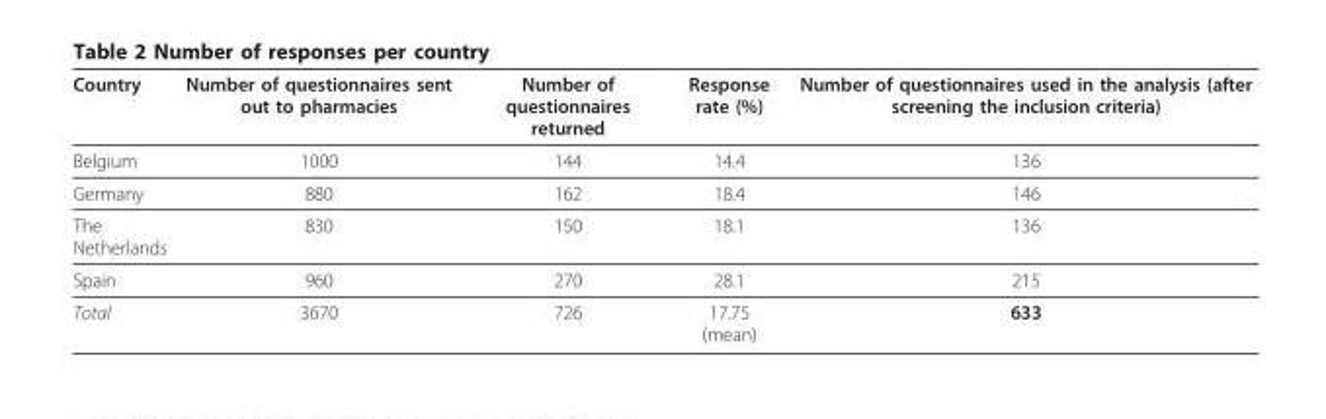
<table><thead><tr><td>Country</td><td>Number of questionnaires sent out to pharmacies</td><td>Number of questionnaires returned</td><td>Response rate (%)</td><td>Number of questionnaires used in the analysis (after screening the inclusion criteria)</td></tr></thead><tbody><tr><td>Belgium</td><td>1000</td><td>144</td><td>14.4</td><td>136</td></tr><tr><td>Germany</td><td>880</td><td>162</td><td>18.4</td><td>146</td></tr><tr><td>The Netherlands</td><td>830</td><td>150</td><td>18.1</td><td>136</td></tr><tr><td>Spain</td><td>960</td><td>270</td><td>28.1</td><td>215</td></tr><tr><td>Total</td><td>3670</td><td>726</td><td>17.75 (mean)</td><td>633</td></tr></tbody></table>